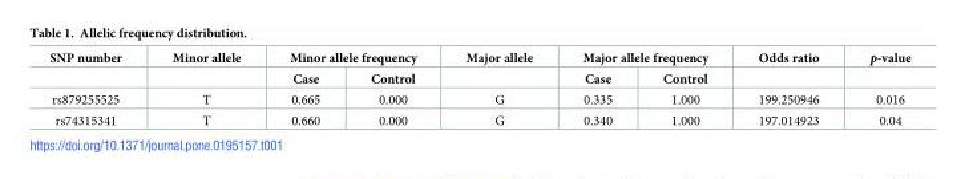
<table><thead><tr><td rowspan="2">SNP number</td><td rowspan="2">Minor allele</td><td colspan="2">Minor allele frequency</td><td rowspan="2">Major allele</td><td colspan="2">Major allele frequency</td><td rowspan="2">Odds ratio</td><td rowspan="2">p-value</td></tr><tr><td>Case</td><td>Control</td><td>Case</td><td>Control</td></tr></thead><tbody><tr><td>rs879255525</td><td>T</td><td>0.665</td><td>0.000</td><td>G</td><td>0.335</td><td>1.000</td><td>199.250946</td><td>0.016</td></tr><tr><td>rs74315341</td><td>T</td><td>0.660</td><td>0.000</td><td>G</td><td>0.340</td><td>1.000</td><td>197.014923</td><td>0.04</td></tr></tbody></table>